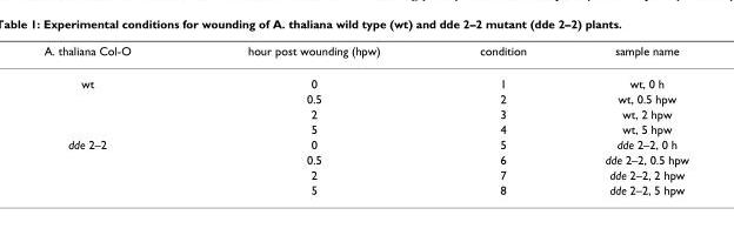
<table><thead><tr><td>A. thaliana Col-O</td><td>hour post wounding (hpw)</td><td>condition</td><td>sample name</td></tr></thead><tbody><tr><td rowspan="4">wt</td><td>0</td><td>1</td><td>wt, 0 h</td></tr><tr><td>0.5</td><td>2</td><td>wt, 0.5 hpw</td></tr><tr><td>2</td><td>3</td><td>wt, 2 hpw</td></tr><tr><td>5</td><td>4</td><td>wt, 5 hpw</td></tr><tr><td rowspan="4">dde 2–2</td><td>0</td><td>5</td><td>dde 2–2, 0 h</td></tr><tr><td>0.5</td><td>6</td><td>dde 2–2, 0.5 hpw</td></tr><tr><td>2</td><td>7</td><td>dde 2–2, 2 hpw</td></tr><tr><td>5</td><td>8</td><td>dde 2–2, 5 hpw</td></tr></tbody></table>